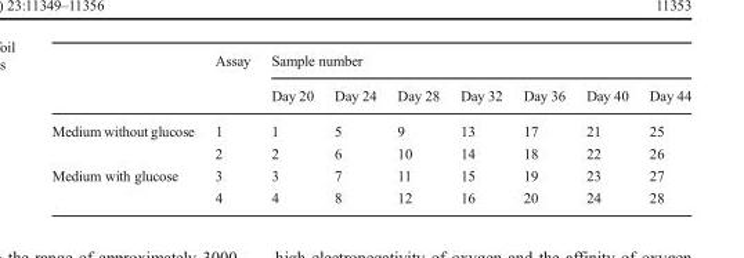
<table><thead><tr><td rowspan="2"></td><td rowspan="2">Assay</td><td colspan="7">Sample number</td></tr><tr><td>Day 20</td><td>Day 24</td><td>Day 28</td><td>Day 32</td><td>Day 36</td><td>Day 40</td><td>Day 44</td></tr></thead><tbody><tr><td rowspan="2">Medium without glucose</td><td>1</td><td>1</td><td>5</td><td>9</td><td>13</td><td>17</td><td>21</td><td>25</td></tr><tr><td>2</td><td>2</td><td>6</td><td>10</td><td>14</td><td>18</td><td>22</td><td>26</td></tr><tr><td rowspan="2">Medium with glucose</td><td>3</td><td>3</td><td>7</td><td>11</td><td>15</td><td>19</td><td>23</td><td>27</td></tr><tr><td>4</td><td>4</td><td>8</td><td>12</td><td>16</td><td>20</td><td>24</td><td>28</td></tr></tbody></table>